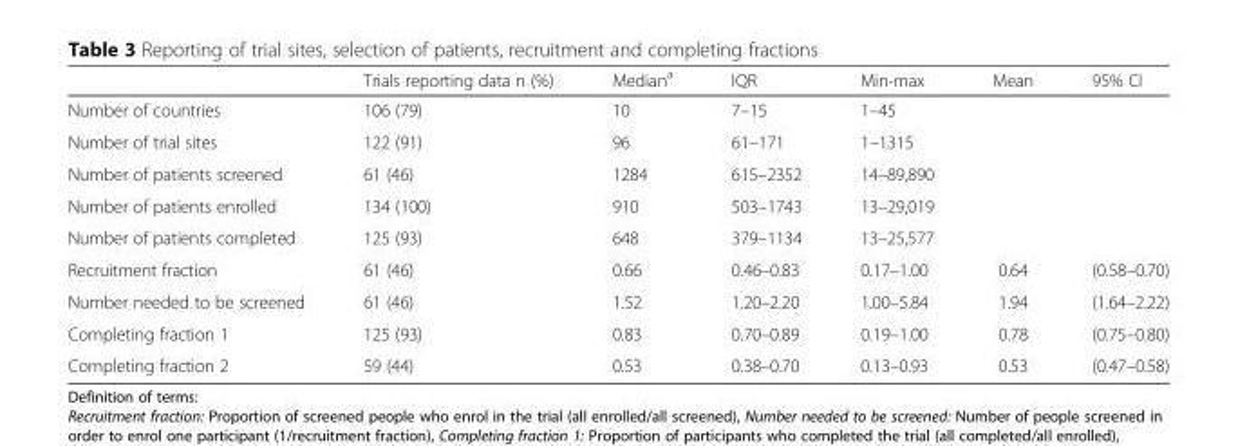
<table><thead><tr><td></td><td>Trials reporting data n (%)</td><td>Median<sup>a</sup></td><td>IQR</td><td>Min-max</td><td>Mean</td><td>95% CI</td></tr></thead><tbody><tr><td>Number of countries</td><td>106 (79)</td><td>10</td><td>7–15</td><td>1–45</td><td></td><td></td></tr><tr><td>Number of trial sites</td><td>122 (91)</td><td>96</td><td>61–171</td><td>1–1315</td><td></td><td></td></tr><tr><td>Number of patients screened</td><td>61 (46)</td><td>1284</td><td>615–2352</td><td>14–89,890</td><td></td><td></td></tr><tr><td>Number of patients enrolled</td><td>134 (100)</td><td>910</td><td>503–1743</td><td>13–29,019</td><td></td><td></td></tr><tr><td>Number of patients completed</td><td>125 (93)</td><td>648</td><td>379–1134</td><td>13–25,577</td><td></td><td></td></tr><tr><td>Recruitment fraction</td><td>61 (46)</td><td>0.66</td><td>0.46–0.83</td><td>0.17–1.00</td><td>0.64</td><td>(0.58–0.70)</td></tr><tr><td>Number needed to be screened</td><td>61 (46)</td><td>1.52</td><td>1.20–2.20</td><td>1.00–5.84</td><td>1.94</td><td>(1.64–2.22)</td></tr><tr><td>Completing fraction 1</td><td>125 (93)</td><td>0.83</td><td>0.70–0.89</td><td>0.19–1.00</td><td>0.78</td><td>(0.75–0.80)</td></tr><tr><td>Completing fraction 2</td><td>59 (44)</td><td>0.53</td><td>0.38–0.70</td><td>0.13–0.93</td><td>0.53</td><td>(0.47–0.58)</td></tr></tbody></table>